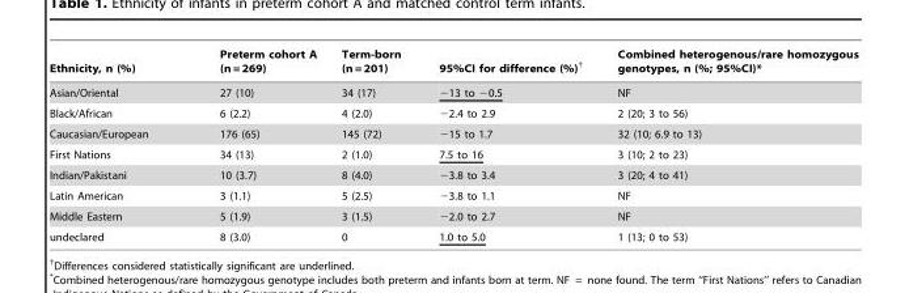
<table><thead><tr><td>Ethnicity, n (%)</td><td>Preterm cohort A (n = 269)</td><td>Term-born (n = 201)</td><td>95%CI for difference (%)†</td><td>Combined heterogenous/rare homozygous genotypes, n (%; 95%CI)*</td></tr></thead><tbody><tr><td>Asian/Oriental</td><td>27 (10)</td><td>34 (17)</td><td>−13 to −0.5</td><td>NF</td></tr><tr><td>Black/African</td><td>6 (2.2)</td><td>4 (2.0)</td><td>−2.4 to 2.9</td><td>2 (20; 3 to 56)</td></tr><tr><td>Caucasian/European</td><td>176 (65)</td><td>145 (72)</td><td>−15 to 1.7</td><td>32 (10; 6.9 to 13)</td></tr><tr><td>First Nations</td><td>34 (13)</td><td>2 (1.0)</td><td>7.5 to 16</td><td>3 (10; 2 to 23)</td></tr><tr><td>Indian/Pakistani</td><td>10 (3.7)</td><td>8 (4.0)</td><td>−3.8 to 3.4</td><td>3 (20; 4 to 41)</td></tr><tr><td>Latin American</td><td>3 (1.1)</td><td>5 (2.5)</td><td>−3.8 to 1.1</td><td>NF</td></tr><tr><td>Middle Eastern</td><td>5 (1.9)</td><td>3 (1.5)</td><td>−2.0 to 2.7</td><td>NF</td></tr><tr><td>undeclared</td><td>8 (3.0)</td><td>0</td><td>1.0 to 5.0</td><td>1 (13; 0 to 53)</td></tr></tbody></table>